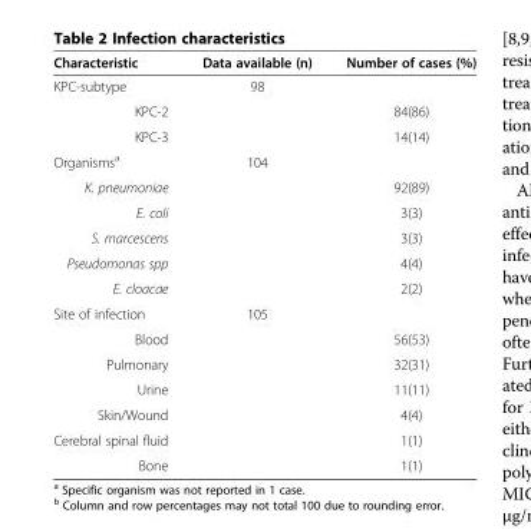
<table><thead><tr><td>Characteristic</td><td>Data available (n)</td><td>Number of cases (%)</td></tr></thead><tbody><tr><td>KPC-subtype</td><td>98</td><td></td></tr><tr><td>KPC-2</td><td></td><td>84(86)</td></tr><tr><td>KPC-3</td><td></td><td>14(14)</td></tr><tr><td>Organisms<sup>a</sup></td><td>104</td><td></td></tr><tr><td>K. pneumoniae</td><td></td><td>92(89)</td></tr><tr><td>E. coli</td><td></td><td>3(3)</td></tr><tr><td>S. marcescens</td><td></td><td>3(3)</td></tr><tr><td>Pseudomonas spp</td><td></td><td>4(4)</td></tr><tr><td>E. cloacae</td><td></td><td>2(2)</td></tr><tr><td>Site of infection</td><td>105</td><td></td></tr><tr><td>Blood</td><td></td><td>56(53)</td></tr><tr><td>Pulmonary</td><td></td><td>32(31)</td></tr><tr><td>Urine</td><td></td><td>11(11)</td></tr><tr><td>Skin/Wound</td><td></td><td>4(4)</td></tr><tr><td>Cerebral spinal fluid</td><td></td><td>1(1)</td></tr><tr><td>Bone</td><td></td><td>1(1)</td></tr></tbody></table>